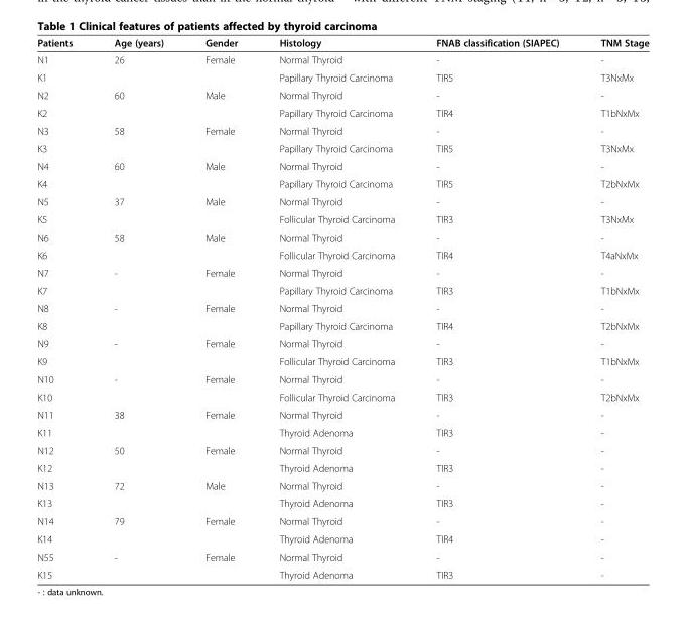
<table><thead><tr><td>Patients</td><td>Age (years)</td><td>Gender</td><td>Histology</td><td>FNAB classification (SIAPEC)</td><td>TNM Stage</td></tr></thead><tbody><tr><td>N1</td><td rowspan="2">26</td><td rowspan="2">Female</td><td>Normal Thyroid</td><td>-</td><td>-</td></tr><tr><td>K1</td><td>Papillary Thyroid Carcinoma</td><td>TIR5</td><td>T3NxMx</td></tr><tr><td>N2</td><td rowspan="2">60</td><td rowspan="2">Male</td><td>Normal Thyroid</td><td>-</td><td>-</td></tr><tr><td>K2</td><td>Papillary Thyroid Carcinoma</td><td>TIR4</td><td>T1bNxMx</td></tr><tr><td>N3</td><td rowspan="2">58</td><td rowspan="2">Female</td><td>Normal Thyroid</td><td>-</td><td>-</td></tr><tr><td>K3</td><td>Papillary Thyroid Carcinoma</td><td>TIR5</td><td>T3NxMx</td></tr><tr><td>N4</td><td rowspan="2">60</td><td rowspan="2">Male</td><td>Normal Thyroid</td><td>-</td><td>-</td></tr><tr><td>K4</td><td>Papillary Thyroid Carcinoma</td><td>TIR5</td><td>T2bNxMx</td></tr><tr><td>N5</td><td rowspan="2">37</td><td rowspan="2">Male</td><td>Normal Thyroid</td><td>-</td><td>-</td></tr><tr><td>K5</td><td>Follicular Thyroid Carcinoma</td><td>TIR3</td><td>T3NxMx</td></tr><tr><td>N6</td><td rowspan="2">58</td><td rowspan="2">Male</td><td>Normal Thyroid</td><td>-</td><td>-</td></tr><tr><td>K6</td><td>Follicular Thyroid Carcinoma</td><td>TIR4</td><td>T4aNxMx</td></tr><tr><td>N7</td><td rowspan="2">-</td><td rowspan="2">Female</td><td>Normal Thyroid</td><td>-</td><td>-</td></tr><tr><td>K7</td><td>Papillary Thyroid Carcinoma</td><td>TIR3</td><td>T1bNxMx</td></tr><tr><td>N8</td><td rowspan="2">-</td><td rowspan="2">Female</td><td>Normal Thyroid</td><td>-</td><td>-</td></tr><tr><td>K8</td><td>Papillary Thyroid Carcinoma</td><td>TIR4</td><td>T2bNxMx</td></tr><tr><td>N9</td><td rowspan="2">-</td><td rowspan="2">Female</td><td>Normal Thyroid</td><td>-</td><td>-</td></tr><tr><td>K9</td><td>Follicular Thyroid Carcinoma</td><td>TIR3</td><td>T1bNxMx</td></tr><tr><td>N10</td><td rowspan="2">-</td><td rowspan="2">Female</td><td>Normal Thyroid</td><td>-</td><td>-</td></tr><tr><td>K10</td><td>Follicular Thyroid Carcinoma</td><td>TIR3</td><td>T2bNxMx</td></tr><tr><td>N11</td><td>38</td><td>Female</td><td>Normal Thyroid</td><td>-</td><td>-</td></tr><tr><td>K11</td><td></td><td></td><td>Thyroid Adenoma</td><td>TIR3</td><td>-</td></tr><tr><td>N12</td><td rowspan="2">50</td><td rowspan="2">Female</td><td>Normal Thyroid</td><td>-</td><td>-</td></tr><tr><td>K12</td><td>Thyroid Adenoma</td><td>TIR3</td><td>-</td></tr><tr><td>N13</td><td rowspan="2">72</td><td rowspan="2">Male</td><td>Normal Thyroid</td><td>-</td><td>-</td></tr><tr><td>K13</td><td>Thyroid Adenoma</td><td>TIR3</td><td>-</td></tr><tr><td>N14</td><td rowspan="2">79</td><td rowspan="2">Female</td><td>Normal Thyroid</td><td>-</td><td>-</td></tr><tr><td>K14</td><td>Thyroid Adenoma</td><td>TIR4</td><td>-</td></tr><tr><td>N55</td><td rowspan="2">-</td><td rowspan="2">Female</td><td>Normal Thyroid</td><td>-</td><td>-</td></tr><tr><td>K15</td><td>Thyroid Adenoma</td><td>TIR3</td><td>-</td></tr></tbody></table>